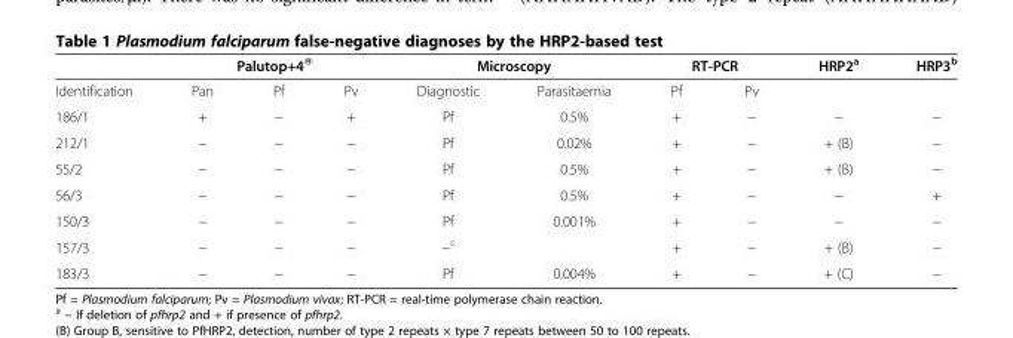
<table><thead><tr><td rowspan="2">Identification</td><td colspan="3">Palutop+4®</td><td colspan="2">Microscopy</td><td colspan="2">RT-PCR</td><td rowspan="2">HRP2<sup>a</sup></td><td rowspan="2">HRP3<sup>b</sup></td></tr><tr><td>Pan</td><td>Pf</td><td>Pv</td><td>Diagnostic</td><td>Parasitaemia</td><td>Pf</td><td>Pv</td></tr></thead><tbody><tr><td>186/1</td><td>+</td><td>−</td><td>+</td><td>Pf</td><td>0.5%</td><td>+</td><td>−</td><td>−</td><td>−</td></tr><tr><td>212/1</td><td>−</td><td>−</td><td>−</td><td>Pf</td><td>0.02%</td><td>+</td><td>−</td><td>+ (B)</td><td>−</td></tr><tr><td>55/2</td><td>−</td><td>−</td><td>−</td><td>Pf</td><td>0.5%</td><td>+</td><td>−</td><td>+ (B)</td><td>−</td></tr><tr><td>56/3</td><td>−</td><td>−</td><td>−</td><td>Pf</td><td>0.5%</td><td>+</td><td>−</td><td>−</td><td>+</td></tr><tr><td>150/3</td><td>−</td><td>−</td><td>−</td><td>Pf</td><td>0.001%</td><td>+</td><td>−</td><td>−</td><td>−</td></tr><tr><td>157/3</td><td>−</td><td>−</td><td>−</td><td>−<sup>c</sup></td><td></td><td>+</td><td>−</td><td>+ (B)</td><td>−</td></tr><tr><td>183/3</td><td>−</td><td>−</td><td>−</td><td>Pf</td><td>0.004%</td><td>+</td><td>−</td><td>+ (C)</td><td>−</td></tr></tbody></table>